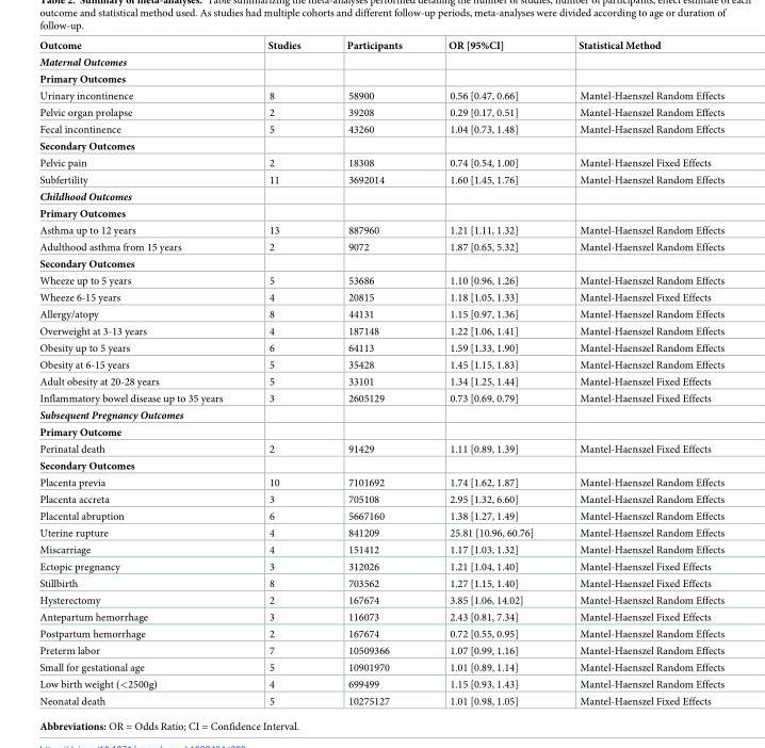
<table><thead><tr><td>Outcome</td><td>Studies</td><td>Participants</td><td>OR [95%CI]</td><td>Statistical Method</td></tr></thead><tbody><tr><td colspan="5">Maternal Outcomes</td></tr><tr><td colspan="5">Primary Outcomes</td></tr><tr><td>Urinary incontinence</td><td>8</td><td>58900</td><td>0.56 [0.47, 0.66]</td><td>Mantel-Haenszel Random Effects</td></tr><tr><td>Pelvic organ prolapse</td><td>2</td><td>39208</td><td>0.29 [0.17, 0.51]</td><td>Mantel-Haenszel Random Effects</td></tr><tr><td>Fecal incontinence</td><td>5</td><td>43260</td><td>1.04 [0.73, 1.48]</td><td>Mantel-Haenszel Random Effects</td></tr><tr><td colspan="5">Secondary Outcomes</td></tr><tr><td>Pelvic pain</td><td>2</td><td>18308</td><td>0.74 [0.54, 1.00]</td><td>Mantel-Haenszel Fixed Effects</td></tr><tr><td>Subfertility</td><td>11</td><td>3692014</td><td>1.60 [1.45, 1.76]</td><td>Mantel-Haenszel Random Effects</td></tr><tr><td colspan="5">Childhood Outcomes</td></tr><tr><td colspan="5">Primary Outcomes</td></tr><tr><td>Asthma up to 12 years</td><td>13</td><td>887960</td><td>1.21 [1.11, 1.32]</td><td>Mantel-Haenszel Random Effects</td></tr><tr><td>Adulthood asthma from 15 years</td><td>2</td><td>9072</td><td>1.87 [0.65, 5.32]</td><td>Mantel-Haenszel Random Effects</td></tr><tr><td colspan="5">Secondary Outcomes</td></tr><tr><td>Wheeze up to 5 years</td><td>5</td><td>53686</td><td>1.10 [0.96, 1.26]</td><td>Mantel-Haenszel Random Effects</td></tr><tr><td>Wheeze 6-15 years</td><td>4</td><td>20815</td><td>1.18 [1.05, 1.33]</td><td>Mantel-Haenszel Fixed Effects</td></tr><tr><td>Allergy/atopy</td><td>8</td><td>44131</td><td>1.15 [0.97, 1.36]</td><td>Mantel-Haenszel Random Effects</td></tr><tr><td>Overweight at 3-13 years</td><td>4</td><td>187148</td><td>1.22 [1.06, 1.41]</td><td>Mantel-Haenszel Random Effects</td></tr><tr><td>Obesity up to 5 years</td><td>6</td><td>64113</td><td>1.59 [1.33, 1.90]</td><td>Mantel-Haenszel Random Effects</td></tr><tr><td>Obesity at 6-15 years</td><td>5</td><td>35428</td><td>1.45 [1.15, 1.83]</td><td>Mantel-Haenszel Random Effects</td></tr><tr><td>Adult obesity at 20-28 years</td><td>5</td><td>33101</td><td>1.34 [1.25, 1.44]</td><td>Mantel-Haenszel Fixed Effects</td></tr><tr><td>Inflammatory bowel disease up to 35 years</td><td>3</td><td>2605129</td><td>0.73 [0.69, 0.79]</td><td>Mantel-Haenszel Fixed Effects</td></tr><tr><td colspan="5">Subsequent Pregnancy Outcomes</td></tr><tr><td colspan="5">Primary Outcome</td></tr><tr><td>Perinatal death</td><td>2</td><td>91429</td><td>1.11 [0.89, 1.39]</td><td>Mantel-Haenszel Fixed Effects</td></tr><tr><td colspan="5">Secondary Outcomes</td></tr><tr><td>Placenta previa</td><td>10</td><td>7101692</td><td>1.74 [1.62, 1.87]</td><td>Mantel-Haenszel Random Effects</td></tr><tr><td>Placenta accreta</td><td>3</td><td>705108</td><td>2.95 [1.32, 6.60]</td><td>Mantel-Haenszel Random Effects</td></tr><tr><td>Placental abruption</td><td>6</td><td>5667160</td><td>1.38 [1.27, 1.49]</td><td>Mantel-Haenszel Random Effects</td></tr><tr><td>Uterine rupture</td><td>4</td><td>841209</td><td>25.81 [10.96, 60.76]</td><td>Mantel-Haenszel Random Effects</td></tr><tr><td>Miscarriage</td><td>4</td><td>151412</td><td>1.17 [1.03, 1.32]</td><td>Mantel-Haenszel Random Effects</td></tr><tr><td>Ectopic pregnancy</td><td>3</td><td>312026</td><td>1.21 [1.04, 1.40]</td><td>Mantel-Haenszel Fixed Effects</td></tr><tr><td>Stillbirth</td><td>8</td><td>703562</td><td>1.27 [1.15, 1.40]</td><td>Mantel-Haenszel Fixed Effects</td></tr><tr><td>Hysterectomy</td><td>2</td><td>167674</td><td>3.85 [1.06, 14.02]</td><td>Mantel-Haenszel Random Effects</td></tr><tr><td>Antepartum hemorrhage</td><td>3</td><td>116073</td><td>2.43 [0.81, 7.34]</td><td>Mantel-Haenszel Fixed Effects</td></tr><tr><td>Postpartum hemorrhage</td><td>2</td><td>167674</td><td>0.72 [0.55, 0.95]</td><td>Mantel-Haenszel Random Effects</td></tr><tr><td>Preterm labor</td><td>7</td><td>10509366</td><td>1.07 [0.99, 1.16]</td><td>Mantel-Haenszel Random Effects</td></tr><tr><td>Small for gestational age</td><td>5</td><td>10901970</td><td>1.01 [0.89, 1.14]</td><td>Mantel-Haenszel Random Effects</td></tr><tr><td>Low birth weight (&lt;2500g)</td><td>4</td><td>699499</td><td>1.15 [0.93, 1.43]</td><td>Mantel-Haenszel Random Effects</td></tr><tr><td>Neonatal death</td><td>5</td><td>10275127</td><td>1.01 [0.98, 1.05]</td><td>Mantel-Haenszel Fixed Effects</td></tr></tbody></table>